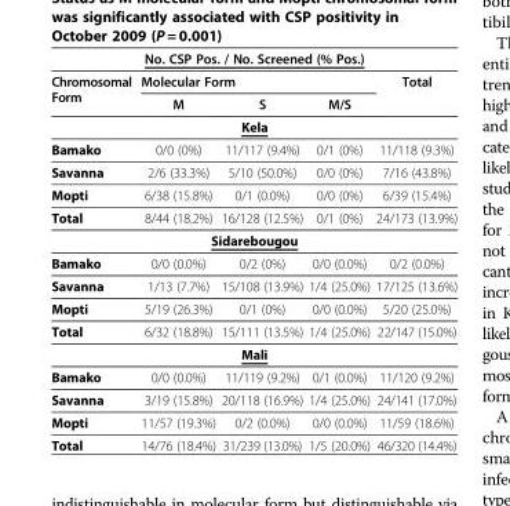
<table><thead><tr><td colspan="5">No. CSP Pos. / No. Screened (% Pos.)</td></tr><tr><td rowspan="2">Chromosomal Form</td><td colspan="3">Molecular Form</td><td rowspan="2">Total</td></tr><tr><td>M</td><td>S</td><td>M/S</td></tr></thead><tbody><tr><td colspan="5">Kela</td></tr><tr><td>Bamako</td><td>0/0 (0%)</td><td>11/117 (9.4%)</td><td>0/1 (0%)</td><td>11/118 (9.3%)</td></tr><tr><td>Savanna</td><td>2/6 (33.3%)</td><td>5/10 (50.0%)</td><td>0/0 (0%)</td><td>7/16 (43.8%)</td></tr><tr><td>Mopti</td><td>6/38 (15.8%)</td><td>0/1 (0.0%)</td><td>0/0 (0%)</td><td>6/39 (15.4%)</td></tr><tr><td>Total</td><td>8/44 (18.2%)</td><td>16/128 (12.5%)</td><td>0/1 (0%)</td><td>24/173 (13.9%)</td></tr><tr><td colspan="5">Sidarebougou</td></tr><tr><td>Bamako</td><td>0/0 (0.0%)</td><td>0/2 (0%)</td><td>0/0 (0.0%)</td><td>0/2 (0.0%)</td></tr><tr><td>Savanna</td><td>1/13 (7.7%)</td><td>15/108 (13.9%)</td><td>1/4 (25.0%)</td><td>17/125 (13.6%)</td></tr><tr><td>Mopti</td><td>5/19 (26.3%)</td><td>0/1 (0%)</td><td>0/0 (0.0%)</td><td>5/20 (25.0%)</td></tr><tr><td>Total</td><td>6/32 (18.8%)</td><td>15/111 (13.5%)</td><td>1/4 (25.0%)</td><td>22/147 (15.0%)</td></tr><tr><td colspan="5">Mali</td></tr><tr><td>Bamako</td><td>0/0 (0.0%)</td><td>11/119 (9.2%)</td><td>0/1 (0.0%)</td><td>11/120 (9.2%)</td></tr><tr><td>Savanna</td><td>3/19 (15.8%)</td><td>20/118 (16.9%)</td><td>1/4 (25.0%)</td><td>24/141 (17.0%)</td></tr><tr><td>Mopti</td><td>11/57 (19.3%)</td><td>0/2 (0.0%)</td><td>0/0 (0.0%)</td><td>11/59 (18.6%)</td></tr><tr><td>Total</td><td>14/76 (18.4%)</td><td>31/239 (13.0%)</td><td>1/5 (20.0%)</td><td>46/320 (14.4%)</td></tr></tbody></table>